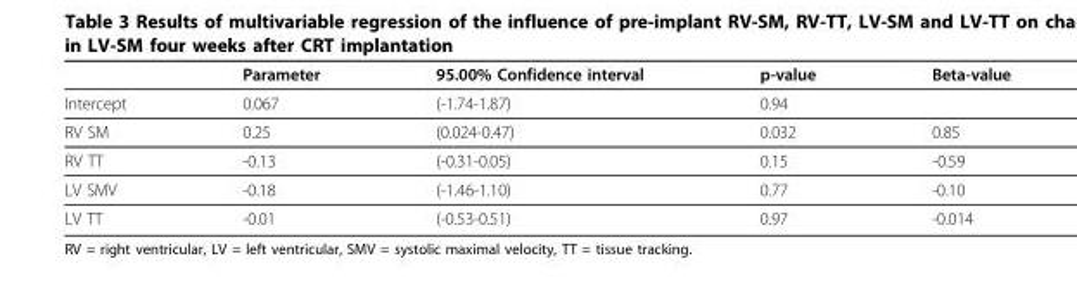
<table><thead><tr><td></td><td>Parameter</td><td>95.00% Confidence interval</td><td>p-value</td><td>Beta-value</td></tr></thead><tbody><tr><td>Intercept</td><td>0.067</td><td>(-1.74-1.87)</td><td>0.94</td><td></td></tr><tr><td>RV SM</td><td>0.25</td><td>(0.024-0.47)</td><td>0.032</td><td>0.85</td></tr><tr><td>RV TT</td><td>-0.13</td><td>(-0.31-0.05)</td><td>0.15</td><td>-0.59</td></tr><tr><td>LV SMV</td><td>-0.18</td><td>(-1.46-1.10)</td><td>0.77</td><td>-0.10</td></tr><tr><td>LV TT</td><td>-0.01</td><td>(-0.53-0.51)</td><td>0.97</td><td>-0.014</td></tr></tbody></table>